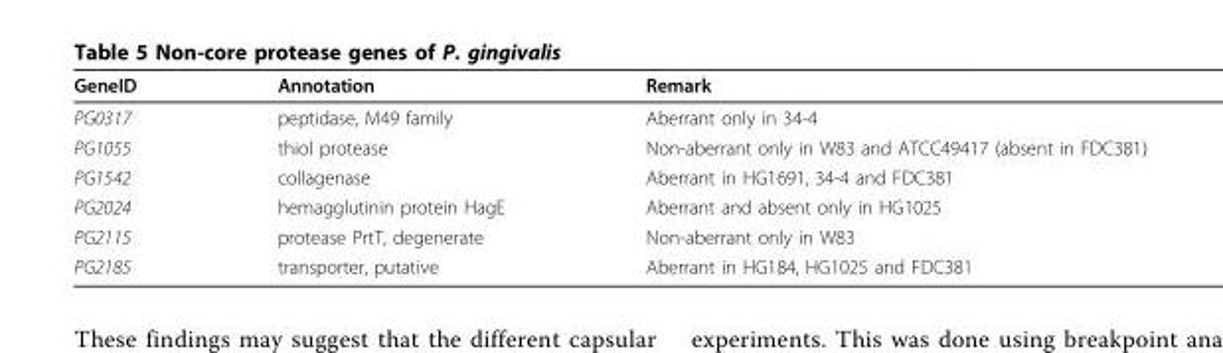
<table><thead><tr><td>GeneID</td><td>Annotation</td><td>Remark</td></tr></thead><tbody><tr><td>PG0317</td><td>peptidase, M49 family</td><td>Aberrant only in 34-4</td></tr><tr><td>PG1055</td><td>thiol protease</td><td>Non-aberrant only in W83 and ATCC49417 (absent in FDC381)</td></tr><tr><td>PG1542</td><td>collagenase</td><td>Aberrant in HG1691, 34-4 and FDC381</td></tr><tr><td>PG2024</td><td>hemagglutinin protein HagE</td><td>Aberrant and absent only in HG1025</td></tr><tr><td>PG2115</td><td>protease PrtT, degenerate</td><td>Non-aberrant only in W83</td></tr><tr><td>PG2185</td><td>transporter, putative</td><td>Aberrant in HG184, HG1025 and FDC381</td></tr></tbody></table>